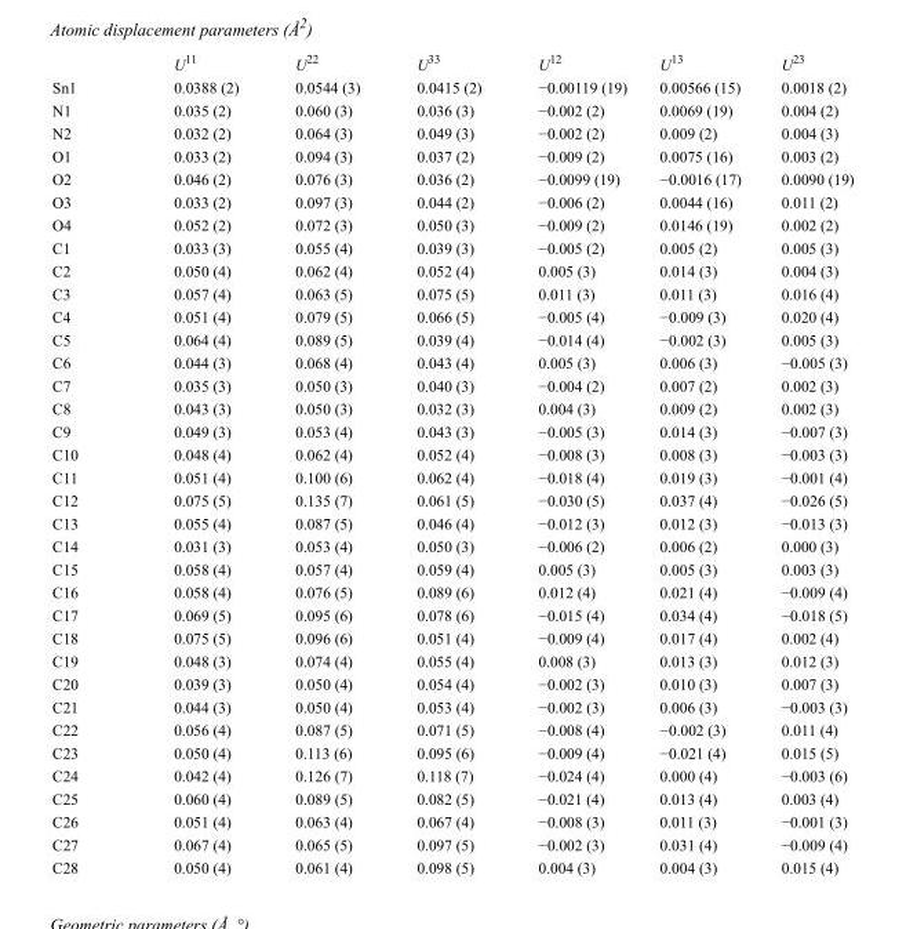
<table><thead><tr><td></td><td>U<sup>11</sup></td><td>U<sup>22</sup></td><td>U<sup>33</sup></td><td>U<sup>12</sup></td><td>U<sup>13</sup></td><td>U<sup>23</sup></td></tr></thead><tbody><tr><td>Sn1</td><td>0.0388 (2)</td><td>0.0544 (3)</td><td>0.0415 (2)</td><td>−0.00119 (19)</td><td>0.00566 (15)</td><td>0.0018 (2)</td></tr><tr><td>N1</td><td>0.035 (2)</td><td>0.060 (3)</td><td>0.036 (3)</td><td>−0.002 (2)</td><td>0.0069 (19)</td><td>0.004 (2)</td></tr><tr><td>N2</td><td>0.032 (2)</td><td>0.064 (3)</td><td>0.049 (3)</td><td>−0.002 (2)</td><td>0.009 (2)</td><td>0.004 (3)</td></tr><tr><td>O1</td><td>0.033 (2)</td><td>0.094 (3)</td><td>0.037 (2)</td><td>−0.009 (2)</td><td>0.0075 (16)</td><td>0.003 (2)</td></tr><tr><td>O2</td><td>0.046 (2)</td><td>0.076 (3)</td><td>0.036 (2)</td><td>−0.0099 (19)</td><td>−0.0016 (17)</td><td>0.0090 (19)</td></tr><tr><td>O3</td><td>0.033 (2)</td><td>0.097 (3)</td><td>0.044 (2)</td><td>−0.006 (2)</td><td>0.0044 (16)</td><td>0.011 (2)</td></tr><tr><td>O4</td><td>0.052 (2)</td><td>0.072 (3)</td><td>0.050 (3)</td><td>−0.009 (2)</td><td>0.0146 (19)</td><td>0.002 (2)</td></tr><tr><td>C1</td><td>0.033 (3)</td><td>0.055 (4)</td><td>0.039 (3)</td><td>−0.005 (2)</td><td>0.005 (2)</td><td>0.005 (3)</td></tr><tr><td>C2</td><td>0.050 (4)</td><td>0.062 (4)</td><td>0.052 (4)</td><td>0.005 (3)</td><td>0.014 (3)</td><td>0.004 (3)</td></tr><tr><td>C3</td><td>0.057 (4)</td><td>0.063 (5)</td><td>0.075 (5)</td><td>0.011 (3)</td><td>0.011 (3)</td><td>0.016 (4)</td></tr><tr><td>C4</td><td>0.051 (4)</td><td>0.079 (5)</td><td>0.066 (5)</td><td>−0.005 (4)</td><td>−0.009 (3)</td><td>0.020 (4)</td></tr><tr><td>C5</td><td>0.064 (4)</td><td>0.089 (5)</td><td>0.039 (4)</td><td>−0.014 (4)</td><td>−0.002 (3)</td><td>0.005 (3)</td></tr><tr><td>C6</td><td>0.044 (3)</td><td>0.068 (4)</td><td>0.043 (4)</td><td>0.005 (3)</td><td>0.006 (3)</td><td>−0.005 (3)</td></tr><tr><td>C7</td><td>0.035 (3)</td><td>0.050 (3)</td><td>0.040 (3)</td><td>−0.004 (2)</td><td>0.007 (2)</td><td>0.002 (3)</td></tr><tr><td>C8</td><td>0.043 (3)</td><td>0.050 (3)</td><td>0.032 (3)</td><td>0.004 (3)</td><td>0.009 (2)</td><td>0.002 (3)</td></tr><tr><td>C9</td><td>0.049 (3)</td><td>0.053 (4)</td><td>0.043 (3)</td><td>−0.005 (3)</td><td>0.014 (3)</td><td>−0.007 (3)</td></tr><tr><td>C10</td><td>0.048 (4)</td><td>0.062 (4)</td><td>0.052 (4)</td><td>−0.008 (3)</td><td>0.008 (3)</td><td>−0.003 (3)</td></tr><tr><td>C11</td><td>0.051 (4)</td><td>0.100 (6)</td><td>0.062 (4)</td><td>−0.018 (4)</td><td>0.019 (3)</td><td>−0.001 (4)</td></tr><tr><td>C12</td><td>0.075 (5)</td><td>0.135 (7)</td><td>0.061 (5)</td><td>−0.030 (5)</td><td>0.037 (4)</td><td>−0.026 (5)</td></tr><tr><td>C13</td><td>0.055 (4)</td><td>0.087 (5)</td><td>0.046 (4)</td><td>−0.012 (3)</td><td>0.012 (3)</td><td>−0.013 (3)</td></tr><tr><td>C14</td><td>0.031 (3)</td><td>0.053 (4)</td><td>0.050 (3)</td><td>−0.006 (2)</td><td>0.006 (2)</td><td>0.000 (3)</td></tr><tr><td>C15</td><td>0.058 (4)</td><td>0.057 (4)</td><td>0.059 (4)</td><td>0.005 (3)</td><td>0.005 (3)</td><td>0.003 (3)</td></tr><tr><td>C16</td><td>0.058 (4)</td><td>0.076 (5)</td><td>0.089 (6)</td><td>0.012 (4)</td><td>0.021 (4)</td><td>−0.009 (4)</td></tr><tr><td>C17</td><td>0.069 (5)</td><td>0.095 (6)</td><td>0.078 (6)</td><td>−0.015 (4)</td><td>0.034 (4)</td><td>−0.018 (5)</td></tr><tr><td>C18</td><td>0.075 (5)</td><td>0.096 (6)</td><td>0.051 (4)</td><td>−0.009 (4)</td><td>0.017 (4)</td><td>0.002 (4)</td></tr><tr><td>C19</td><td>0.048 (3)</td><td>0.074 (4)</td><td>0.055 (4)</td><td>0.008 (3)</td><td>0.013 (3)</td><td>0.012 (3)</td></tr><tr><td>C20</td><td>0.039 (3)</td><td>0.050 (4)</td><td>0.054 (4)</td><td>−0.002 (3)</td><td>0.010 (3)</td><td>0.007 (3)</td></tr><tr><td>C21</td><td>0.044 (3)</td><td>0.050 (4)</td><td>0.053 (4)</td><td>−0.002 (3)</td><td>0.006 (3)</td><td>−0.003 (3)</td></tr><tr><td>C22</td><td>0.056 (4)</td><td>0.087 (5)</td><td>0.071 (5)</td><td>−0.008 (4)</td><td>−0.002 (3)</td><td>0.011 (4)</td></tr><tr><td>C23</td><td>0.050 (4)</td><td>0.113 (6)</td><td>0.095 (6)</td><td>−0.009 (4)</td><td>−0.021 (4)</td><td>0.015 (5)</td></tr><tr><td>C24</td><td>0.042 (4)</td><td>0.126 (7)</td><td>0.118 (7)</td><td>−0.024 (4)</td><td>0.000 (4)</td><td>−0.003 (6)</td></tr><tr><td>C25</td><td>0.060 (4)</td><td>0.089 (5)</td><td>0.082 (5)</td><td>−0.021 (4)</td><td>0.013 (4)</td><td>0.003 (4)</td></tr><tr><td>C26</td><td>0.051 (4)</td><td>0.063 (4)</td><td>0.067 (4)</td><td>−0.008 (3)</td><td>0.011 (3)</td><td>−0.001 (3)</td></tr><tr><td>C27</td><td>0.067 (4)</td><td>0.065 (5)</td><td>0.097 (5)</td><td>−0.002 (3)</td><td>0.031 (4)</td><td>−0.009 (4)</td></tr><tr><td>C28</td><td>0.050 (4)</td><td>0.061 (4)</td><td>0.098 (5)</td><td>0.004 (3)</td><td>0.004 (3)</td><td>0.015 (4)</td></tr></tbody></table>